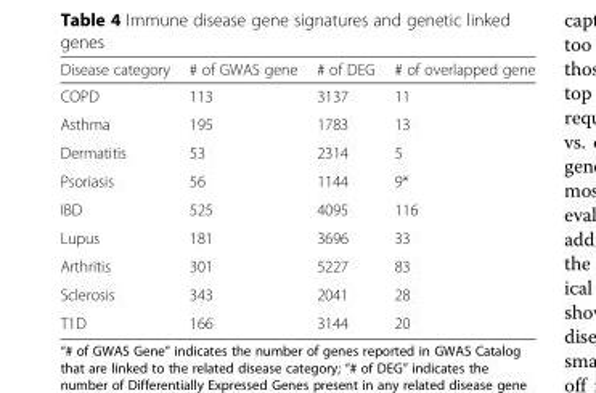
<table><thead><tr><td>Disease category</td><td># of GWAS gene</td><td># of DEG</td><td># of overlapped gene</td></tr></thead><tbody><tr><td>COPD</td><td>113</td><td>3137</td><td>11</td></tr><tr><td>Asthma</td><td>195</td><td>1783</td><td>13</td></tr><tr><td>Dermatitis</td><td>53</td><td>2314</td><td>5</td></tr><tr><td>Psoriasis</td><td>56</td><td>1144</td><td>9*</td></tr><tr><td>IBD</td><td>525</td><td>4095</td><td>116</td></tr><tr><td>Lupus</td><td>181</td><td>3696</td><td>33</td></tr><tr><td>Arthritis</td><td>301</td><td>5227</td><td>83</td></tr><tr><td>Sclerosis</td><td>343</td><td>2041</td><td>28</td></tr><tr><td>T1D</td><td>166</td><td>3144</td><td>20</td></tr></tbody></table>